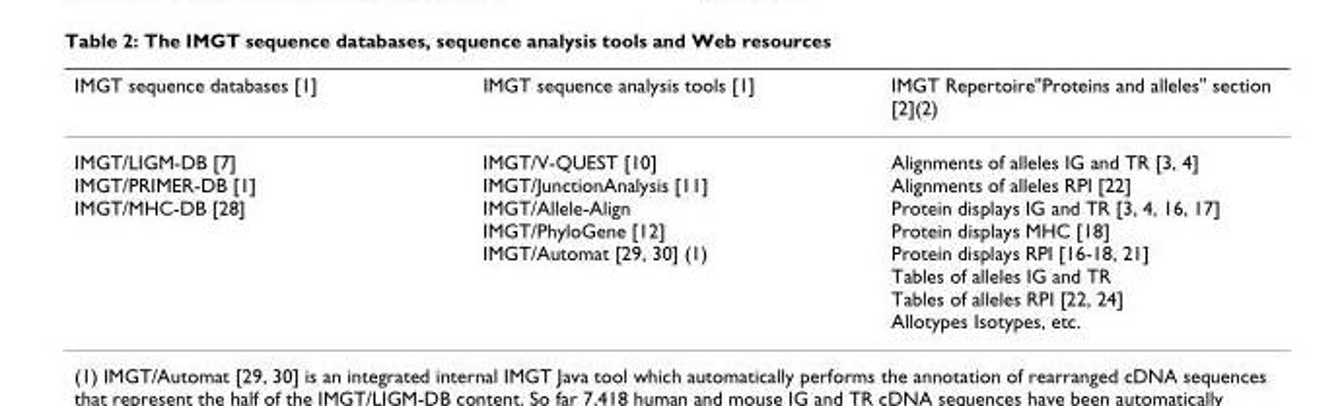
<table><thead><tr><td>IMGT sequence databases [1]</td><td>IMGT sequence analysis tools [1]</td><td>IMGT Repertoire&quot;Proteins and alleles&quot; section [2](2)</td></tr></thead><tbody><tr><td>IMGT/LIGM-DB [7] IMGT/PRIMER-DB [1] IMGT/MHC-DB [28]</td><td>IMGT/V-QUEST [10] IMGT/JunctionAnalysis [11] IMGT/Allele-Align IMGT/PhyloGene [12] IMGT/Automat [29, 30] (1)</td><td>Alignments of alleles IG and TR [3, 4] Alignments of alleles RPI [22] Protein displays IG and TR [3, 4, 16, 17] Protein displays MHC [18] Protein displays RPI [16-18, 21] Tables of alleles IG and TR Tables of alleles RPI [22, 24] Allotypes Isotypes, etc.</td></tr></tbody></table>